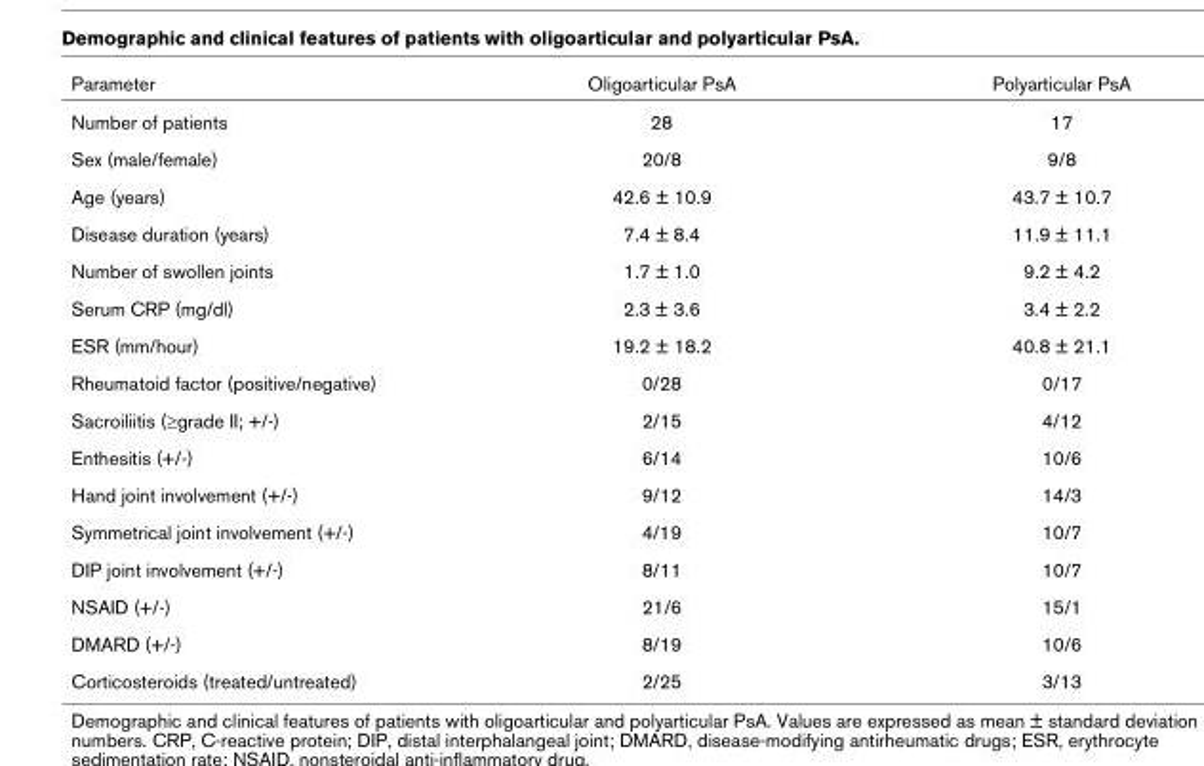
<table><thead><tr><td>Parameter</td><td>Oligoarticular PsA</td><td>Polyarticular PsA</td></tr></thead><tbody><tr><td>Number of patients</td><td>28</td><td>17</td></tr><tr><td>Sex (male/female)</td><td>20/8</td><td>9/8</td></tr><tr><td>Age (years)</td><td>42.6 ± 10.9</td><td>43.7 ± 10.7</td></tr><tr><td>Disease duration (years)</td><td>7.4 ± 8.4</td><td>11.9 ± 11.1</td></tr><tr><td>Number of swollen joints</td><td>1.7 ± 1.0</td><td>9.2 ± 4.2</td></tr><tr><td>Serum CRP (mg/dl)</td><td>2.3 ± 3.6</td><td>3.4 ± 2.2</td></tr><tr><td>ESR (mm/hour)</td><td>19.2 ± 18.2</td><td>40.8 ± 21.1</td></tr><tr><td>Rheumatoid factor (positive/negative)</td><td>0/28</td><td>0/17</td></tr><tr><td>Sacroiliitis (≥grade II; +/-)</td><td>2/15</td><td>4/12</td></tr><tr><td>Enthesitis (+/-)</td><td>6/14</td><td>10/6</td></tr><tr><td>Hand joint involvement (+/-)</td><td>9/12</td><td>14/3</td></tr><tr><td>Symmetrical joint involvement (+/-)</td><td>4/19</td><td>10/7</td></tr><tr><td>DIP joint involvement (+/-)</td><td>8/11</td><td>10/7</td></tr><tr><td>NSAID (+/-)</td><td>21/6</td><td>15/1</td></tr><tr><td>DMARD (+/-)</td><td>8/19</td><td>10/6</td></tr><tr><td>Corticosteroids (treated/untreated)</td><td>2/25</td><td>3/13</td></tr></tbody></table>